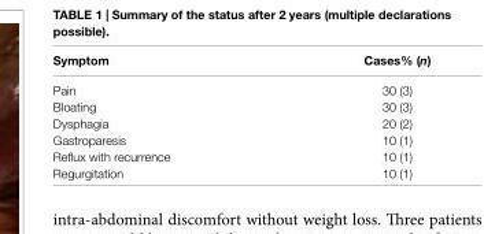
<table><thead><tr><td>symptom</td><td>cases% (n)</td></tr></thead><tbody><tr><td>Pain</td><td>30 (3)</td></tr><tr><td>Bloating</td><td>30 (3)</td></tr><tr><td>Dysphagia</td><td>20 (2)</td></tr><tr><td>Gastroparesis</td><td>10 (1)</td></tr><tr><td>Reflux with recurrence</td><td>10 (1)</td></tr><tr><td>Regurgitation</td><td>10 (1)</td></tr></tbody></table>